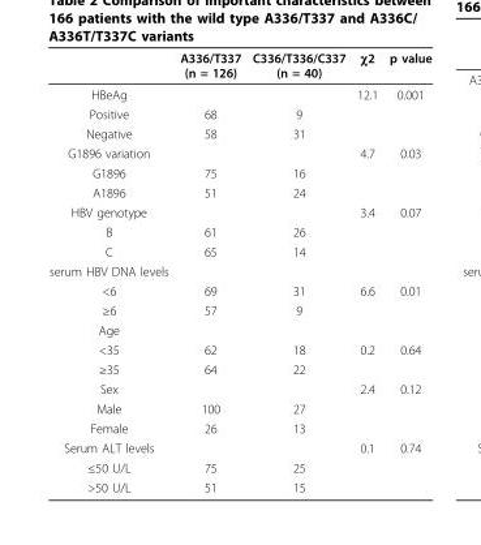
<table><thead><tr><td></td><td>A336/T337 (n = 126)</td><td>C336/T336/C337 (n = 40)</td><td>χ2</td><td>p value</td></tr></thead><tbody><tr><td>HBeAg</td><td></td><td></td><td>12.1</td><td>0.001</td></tr><tr><td>Positive</td><td>68</td><td>9</td><td></td><td></td></tr><tr><td>Negative</td><td>58</td><td>31</td><td></td><td></td></tr><tr><td>G1896 variation</td><td></td><td></td><td>4.7</td><td>0.03</td></tr><tr><td>G1896</td><td>75</td><td>16</td><td></td><td></td></tr><tr><td>A1896</td><td>51</td><td>24</td><td></td><td></td></tr><tr><td>HBV genotype</td><td></td><td></td><td>3.4</td><td>0.07</td></tr><tr><td>B</td><td>61</td><td>26</td><td></td><td></td></tr><tr><td>C</td><td>65</td><td>14</td><td></td><td></td></tr><tr><td colspan="5">serum HBV DNA levels</td></tr><tr><td>&lt;6</td><td>69</td><td>31</td><td>6.6</td><td>0.01</td></tr><tr><td>≥6</td><td>57</td><td>9</td><td></td><td></td></tr><tr><td colspan="5">Age</td></tr><tr><td>&lt;35</td><td>62</td><td>18</td><td>0.2</td><td>0.64</td></tr><tr><td>≥35</td><td>64</td><td>22</td><td></td><td></td></tr><tr><td>Sex</td><td></td><td></td><td>2.4</td><td>0.12</td></tr><tr><td>Male</td><td>100</td><td>27</td><td></td><td></td></tr><tr><td>Female</td><td>26</td><td>13</td><td></td><td></td></tr><tr><td>Serum ALT levels</td><td></td><td></td><td>0.1</td><td>0.74</td></tr><tr><td>≤50 U/L</td><td>75</td><td>25</td><td></td><td></td></tr><tr><td>&gt;50 U/L</td><td>51</td><td>15</td><td></td><td></td></tr></tbody></table>